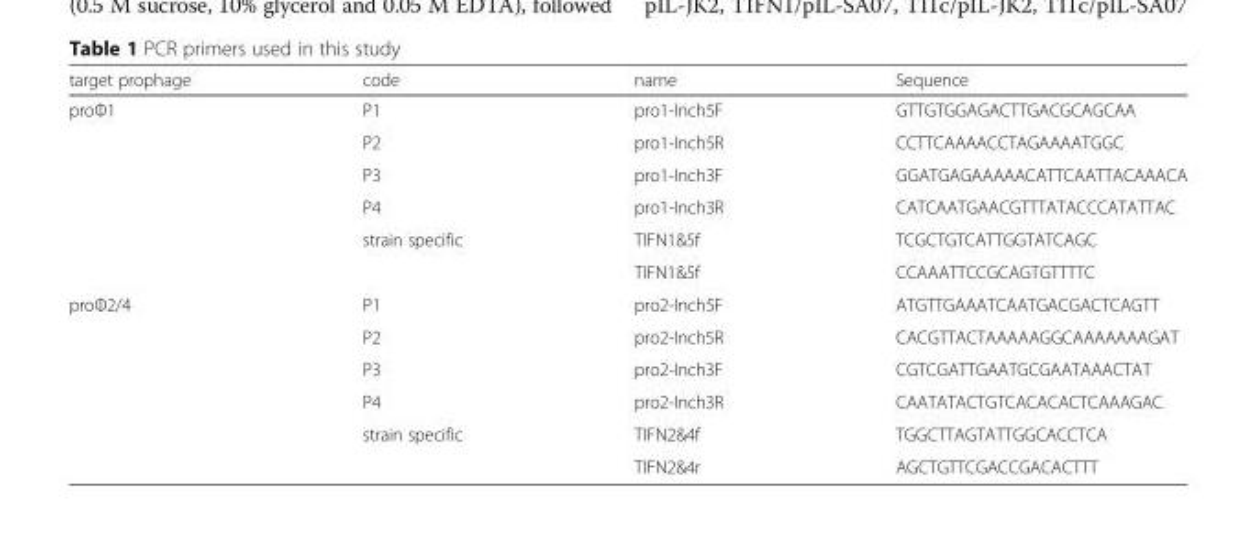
<table><thead><tr><td>target prophage</td><td>code</td><td>name</td><td>Sequence</td></tr></thead><tbody><tr><td rowspan="6">proΦ1</td><td>P1</td><td>pro1-Inch5F</td><td>GTTGTGGAGACTTGACGCAGCAA</td></tr><tr><td>P2</td><td>pro1-Inch5R</td><td>CCTTCAAAACCTAGAAAATGGC</td></tr><tr><td>P3</td><td>pro1-Inch3F</td><td>GGATGAGAAAAACATTCAATTACAAACA</td></tr><tr><td>P4</td><td>pro1-Inch3R</td><td>CATCAATGAACGTTTATACCCATATTAC</td></tr><tr><td rowspan="2">strain specific</td><td>TIFN1&amp;5f</td><td>TCGCTGTCATTGGTATCAGC</td></tr><tr><td>TIFN1&amp;5f</td><td>CCAAATTCCGCAGTGTTTTC</td></tr><tr><td rowspan="6">proΦ2/4</td><td>P1</td><td>pro2-Inch5F</td><td>ATGTTGAAATCAATGACGACTCAGTT</td></tr><tr><td>P2</td><td>pro2-Inch5R</td><td>CACGTTACTAAAAAGGCAAAAAAAGAT</td></tr><tr><td>P3</td><td>pro2-Inch3F</td><td>CGTCGATTGAATGCGAATAAACTAT</td></tr><tr><td>P4</td><td>pro2-Inch3R</td><td>CAATATACTGTCACACACTCAAAGAC</td></tr><tr><td rowspan="2">strain specific</td><td>TIFN2&amp;4f</td><td>TGGCTTAGTATTGGCACCTCA</td></tr><tr><td>TIFN2&amp;4r</td><td>AGCTGTTCGACCGACACTTT</td></tr></tbody></table>